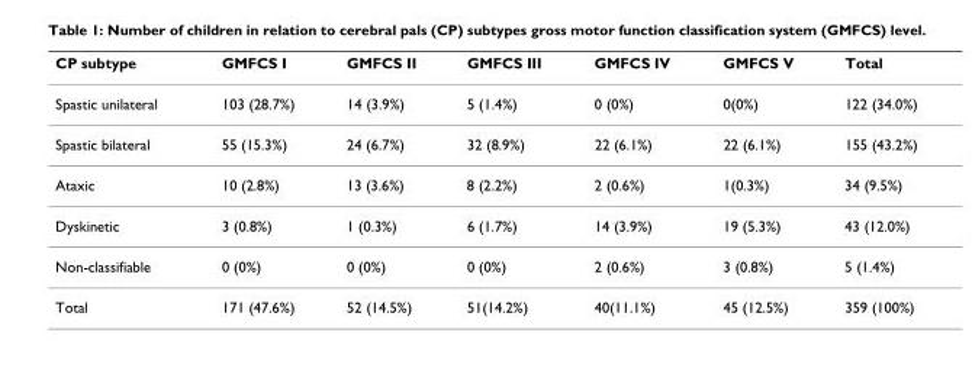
<table><thead><tr><td>CP subtype</td><td>GMFCS I</td><td>GMFCS II</td><td>GMFCS III</td><td>GMFCS IV</td><td>GMFCS V</td><td>Total</td></tr></thead><tbody><tr><td>Spastic unilateral</td><td>103 (28.7%)</td><td>14 (3.9%)</td><td>5 (1.4%)</td><td>0 (0%)</td><td>0(0%)</td><td>122 (34.0%)</td></tr><tr><td>Spastic bilateral</td><td>55 (15.3%)</td><td>24 (6.7%)</td><td>32 (8.9%)</td><td>22 (6.1%)</td><td>22 (6.1%)</td><td>155 (43.2%)</td></tr><tr><td>Ataxic</td><td>10 (2.8%)</td><td>13 (3.6%)</td><td>8 (2.2%)</td><td>2 (0.6%)</td><td>1(0.3%)</td><td>34 (9.5%)</td></tr><tr><td>Dyskinetic</td><td>3 (0.8%)</td><td>1 (0.3%)</td><td>6 (1.7%)</td><td>14 (3.9%)</td><td>19 (5.3%)</td><td>43 (12.0%)</td></tr><tr><td>Non-classifiable</td><td>0 (0%)</td><td>0 (0%)</td><td>0 (0%)</td><td>2 (0.6%)</td><td>3 (0.8%)</td><td>5 (1.4%)</td></tr><tr><td>Total</td><td>171 (47.6%)</td><td>52 (14.5%)</td><td>51(14.2%)</td><td>40(11.1%)</td><td>45 (12.5%)</td><td>359 (100%)</td></tr></tbody></table>